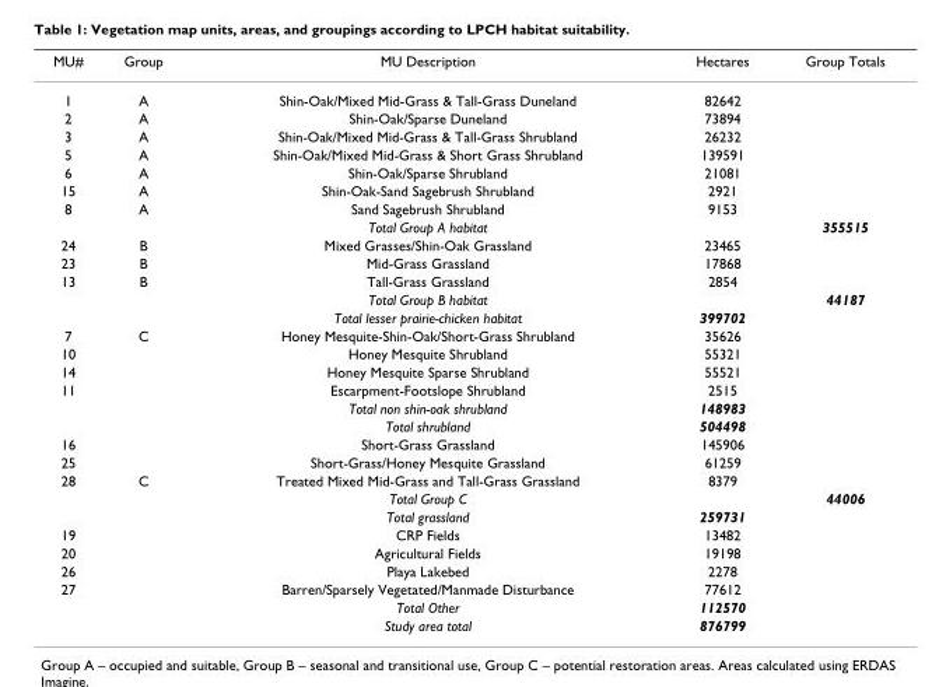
<table><thead><tr><td>MU#</td><td>Group</td><td>MU Description</td><td>Hectares</td><td>Group Totals</td></tr></thead><tbody><tr><td>1</td><td>A</td><td>Shin-Oak/Mixed Mid-Grass &amp; Tall-Grass Duneland</td><td>82642</td><td></td></tr><tr><td>2</td><td>A</td><td>Shin-Oak/Sparse Duneland</td><td>73894</td><td></td></tr><tr><td>3</td><td>A</td><td>Shin-Oak/Mixed Mid-Grass &amp; Tall-Grass Shrubland</td><td>26232</td><td></td></tr><tr><td>5</td><td>A</td><td>Shin-Oak/Mixed Mid-Grass &amp; Short Grass Shrubland</td><td>139591</td><td></td></tr><tr><td>6</td><td>A</td><td>Shin-Oak/Sparse Shrubland</td><td>21081</td><td></td></tr><tr><td>15</td><td>A</td><td>Shin-Oak-Sand Sagebrush Shrubland</td><td>2921</td><td></td></tr><tr><td rowspan="2">8</td><td>A</td><td>Sand Sagebrush Shrubland</td><td>9153</td><td></td></tr><tr><td></td><td>Total Group A habitat</td><td></td><td>355515</td></tr><tr><td>24</td><td>B</td><td>Mixed Grasses/Shin-Oak Grassland</td><td>23465</td><td></td></tr><tr><td>23</td><td>B</td><td>Mid-Grass Grassland</td><td>17868</td><td></td></tr><tr><td rowspan="3">13</td><td>B</td><td>Tall-Grass Grassland</td><td>2854</td><td></td></tr><tr><td></td><td>Total Group B habitat</td><td></td><td>44187</td></tr><tr><td></td><td>Total lesser prairie-chicken habitat</td><td>399702</td><td></td></tr><tr><td>7</td><td>C</td><td>Honey Mesquite-Shin-Oak/Short-Grass Shrubland</td><td>35626</td><td></td></tr><tr><td>10</td><td></td><td>Honey Mesquite Shrubland</td><td>55321</td><td></td></tr><tr><td>14</td><td></td><td>Honey Mesquite Sparse Shrubland</td><td>55521</td><td></td></tr><tr><td rowspan="3">11</td><td></td><td>Escarpment-Footslope Shrubland</td><td>2515</td><td></td></tr><tr><td></td><td>Total non shin-oak shrubland</td><td>148983</td><td></td></tr><tr><td></td><td>Total shrubland</td><td>504498</td><td></td></tr><tr><td>16</td><td></td><td>Short-Grass Grassland</td><td>145906</td><td></td></tr><tr><td>25</td><td></td><td>Short-Grass/Honey Mesquite Grassland</td><td>61259</td><td></td></tr><tr><td rowspan="3">28</td><td>C</td><td>Treated Mixed Mid-Grass and Tall-Grass Grassland</td><td>8379</td><td></td></tr><tr><td></td><td>Total Group C</td><td></td><td>44006</td></tr><tr><td></td><td>Total grassland</td><td>259731</td><td></td></tr><tr><td>19</td><td></td><td>CRP Fields</td><td>13482</td><td></td></tr><tr><td>20</td><td></td><td>Agricultural Fields</td><td>19198</td><td></td></tr><tr><td>26</td><td></td><td>Playa Lakebed</td><td>2278</td><td></td></tr><tr><td rowspan="3">27</td><td></td><td>Barren/Sparsely Vegetated/Manmade Disturbance</td><td>77612</td><td></td></tr><tr><td></td><td>Total Other</td><td>112570</td><td></td></tr><tr><td></td><td>Study area total</td><td>876799</td><td></td></tr></tbody></table>